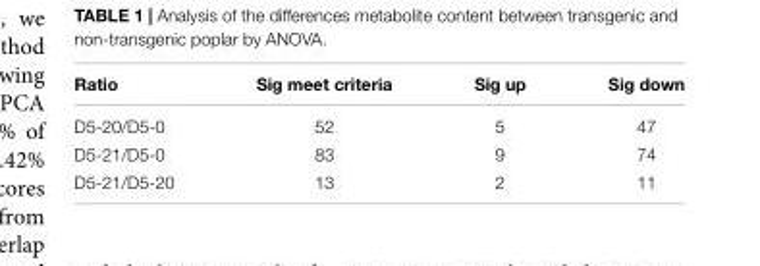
<table><thead><tr><td>Ratio</td><td>Sig meet criteria</td><td>Sig up</td><td>Sig down</td></tr></thead><tbody><tr><td>D5-20/D5-0</td><td>52</td><td>5</td><td>47</td></tr><tr><td>D5-21/D5-0</td><td>83</td><td>9</td><td>74</td></tr><tr><td>D5-21/D5-20</td><td>13</td><td>2</td><td>11</td></tr></tbody></table>